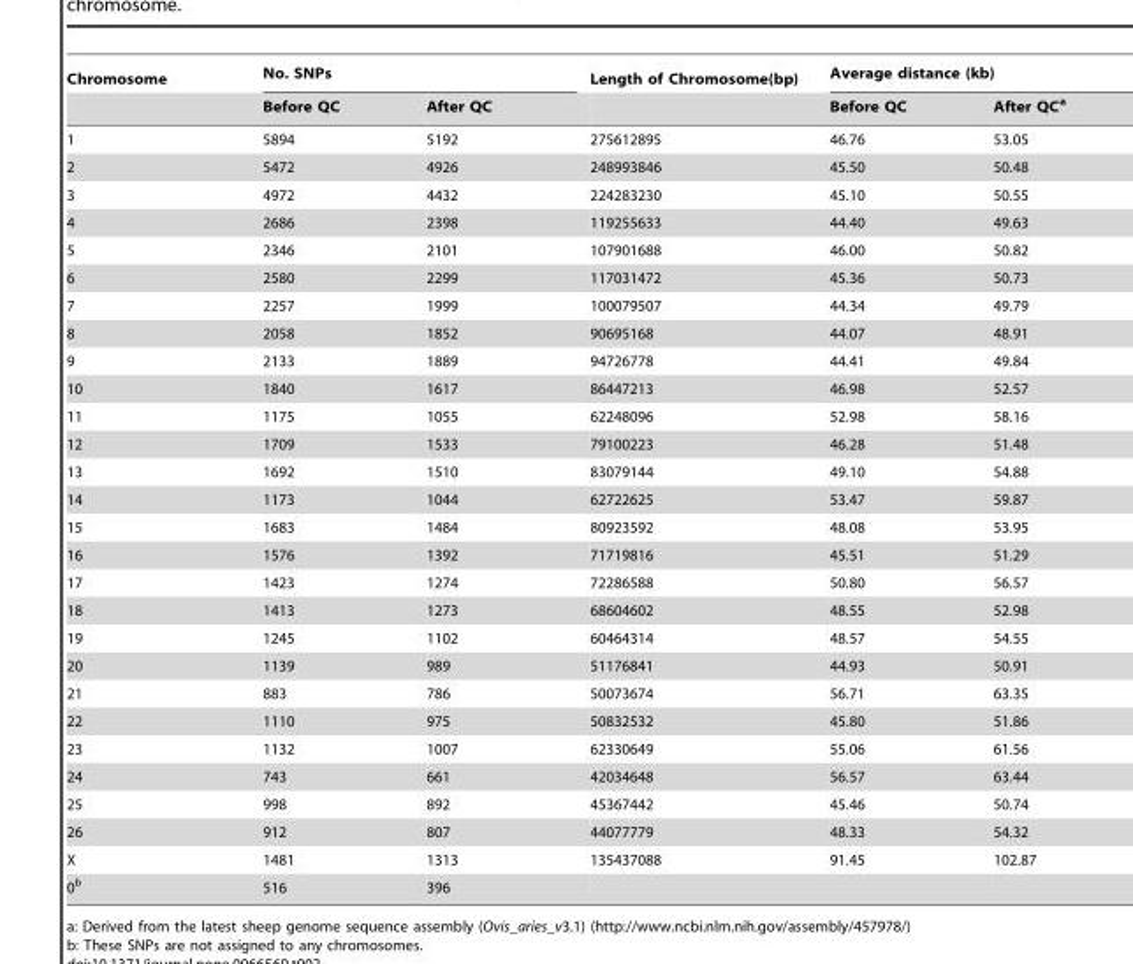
<table><thead><tr><td rowspan="2">Chromosome</td><td colspan="2">No. SNPs</td><td rowspan="2">Length of Chromosome(bp)</td><td colspan="2">Average distance (kb)</td></tr><tr><td>Before QC</td><td>After QC</td><td>Before QC</td><td>After QC<sup>a</sup></td></tr></thead><tbody><tr><td>1</td><td>5894</td><td>5192</td><td>275612895</td><td>46.76</td><td>53.05</td></tr><tr><td>2</td><td>5472</td><td>4926</td><td>248993846</td><td>45.50</td><td>50.48</td></tr><tr><td>3</td><td>4972</td><td>4432</td><td>224283230</td><td>45.10</td><td>50.55</td></tr><tr><td>4</td><td>2686</td><td>2398</td><td>119255633</td><td>44.40</td><td>49.63</td></tr><tr><td>5</td><td>2346</td><td>2101</td><td>107901688</td><td>46.00</td><td>50.82</td></tr><tr><td>6</td><td>2580</td><td>2299</td><td>117031472</td><td>45.36</td><td>50.73</td></tr><tr><td>7</td><td>2257</td><td>1999</td><td>100079507</td><td>44.34</td><td>49.79</td></tr><tr><td>8</td><td>2058</td><td>1852</td><td>90695168</td><td>44.07</td><td>48.91</td></tr><tr><td>9</td><td>2133</td><td>1889</td><td>94726778</td><td>44.41</td><td>49.84</td></tr><tr><td>10</td><td>1840</td><td>1617</td><td>86447213</td><td>46.98</td><td>52.57</td></tr><tr><td>11</td><td>1175</td><td>1055</td><td>62248096</td><td>52.98</td><td>58.16</td></tr><tr><td>12</td><td>1709</td><td>1533</td><td>79100223</td><td>46.28</td><td>51.48</td></tr><tr><td>13</td><td>1692</td><td>1510</td><td>83079144</td><td>49.10</td><td>54.88</td></tr><tr><td>14</td><td>1173</td><td>1044</td><td>62722625</td><td>53.47</td><td>59.87</td></tr><tr><td>15</td><td>1683</td><td>1484</td><td>80923592</td><td>48.08</td><td>53.95</td></tr><tr><td>16</td><td>1576</td><td>1392</td><td>71719816</td><td>45.51</td><td>51.29</td></tr><tr><td>17</td><td>1423</td><td>1274</td><td>72286588</td><td>50.80</td><td>56.57</td></tr><tr><td>18</td><td>1413</td><td>1273</td><td>68604602</td><td>48.55</td><td>52.98</td></tr><tr><td>19</td><td>1245</td><td>1102</td><td>60464314</td><td>48.57</td><td>54.55</td></tr><tr><td>20</td><td>1139</td><td>989</td><td>51176841</td><td>44.93</td><td>50.91</td></tr><tr><td>21</td><td>883</td><td>786</td><td>50073674</td><td>56.71</td><td>63.35</td></tr><tr><td>22</td><td>1110</td><td>975</td><td>50832532</td><td>45.80</td><td>51.86</td></tr><tr><td>23</td><td>1132</td><td>1007</td><td>62330649</td><td>55.06</td><td>61.56</td></tr><tr><td>24</td><td>743</td><td>661</td><td>42034648</td><td>56.57</td><td>63.44</td></tr><tr><td>25</td><td>998</td><td>892</td><td>45367442</td><td>45.46</td><td>50.74</td></tr><tr><td>26</td><td>912</td><td>807</td><td>44077779</td><td>48.33</td><td>54.32</td></tr><tr><td>X</td><td>1481</td><td>1313</td><td>135437088</td><td>91.45</td><td>102.87</td></tr><tr><td>0<sup>b</sup></td><td>516</td><td>396</td><td></td><td></td><td></td></tr></tbody></table>